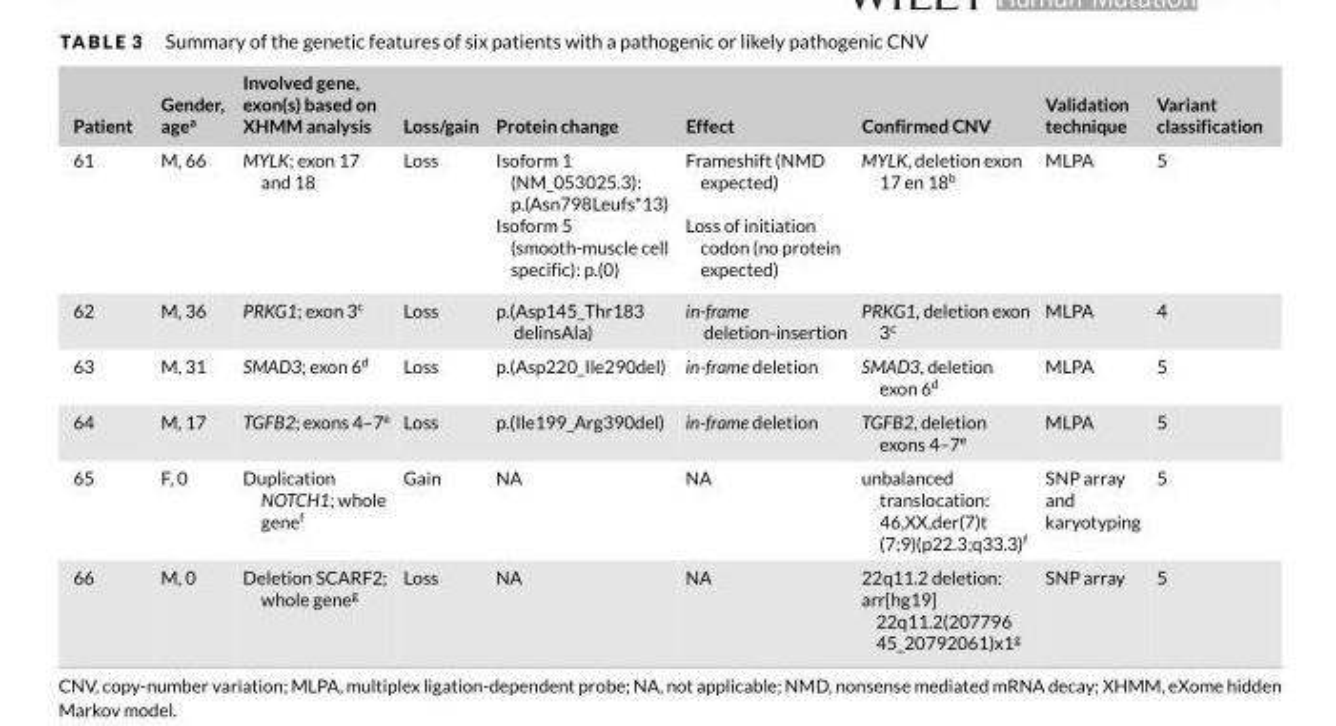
<table><thead><tr><td>Patient</td><td>Gender, age<sup>a</sup></td><td>Involved gene, exon(s) based on XHMM analysis</td><td>Loss/gain</td><td>Protein change</td><td>Effect</td><td>Confirmed CNV</td><td>Validation technique</td><td>Variant classification</td></tr></thead><tbody><tr><td>61</td><td>M, 66</td><td>MYLK; exon 17 and 18</td><td>Loss</td><td>Isoform 1 (NM_053025.3): p.(Asn798Leufs*13) Isoform 5 (smooth-muscle cell specific): p.(0)</td><td>Frameshift (NMD expected) Loss of initiation codon (no protein expected)</td><td>MYLK, deletion exon 17 en 18<sup>b</sup></td><td>MLPA</td><td>5</td></tr><tr><td>62</td><td>M, 36</td><td>PRKG1; exon 3<sup>c</sup></td><td>Loss</td><td>p.(Asp145_Thr183 delinsAla)</td><td>in-frame deletion-insertion</td><td>PRKG1, deletion exon 3<sup>c</sup></td><td>MLPA</td><td>4</td></tr><tr><td>63</td><td>M, 31</td><td>SMAD3; exon 6<sup>d</sup></td><td>Loss</td><td>p.(Asp220_Ile290del)</td><td>in-frame deletion</td><td>SMAD3, deletion exon 6<sup>d</sup></td><td>MLPA</td><td>5</td></tr><tr><td>64</td><td>M, 17</td><td>TGFB2; exons 4–7<sup>e</sup></td><td>Loss</td><td>p.(Ile199_Arg390del)</td><td>in-frame deletion</td><td>TGFB2, deletion exons 4–7<sup>e</sup></td><td>MLPA</td><td>5</td></tr><tr><td>65</td><td>F, 0</td><td>Duplication NOTCH1; whole gene<sup>f</sup></td><td>Gain</td><td>NA</td><td>NA</td><td>unbalanced translocation: 46,XX,der(7)t (7;9)(p22.3;q33.3)<sup>f</sup></td><td>SNP array and karyotyping</td><td>5</td></tr><tr><td>66</td><td>M, 0</td><td>Deletion SCARF2; whole gene<sup>g</sup></td><td>Loss</td><td>NA</td><td>NA</td><td>22q11.2 deletion: arr[hg19] 22q11.2(207796 45_20792061)x1<sup>g</sup></td><td>SNP array</td><td>5</td></tr></tbody></table>